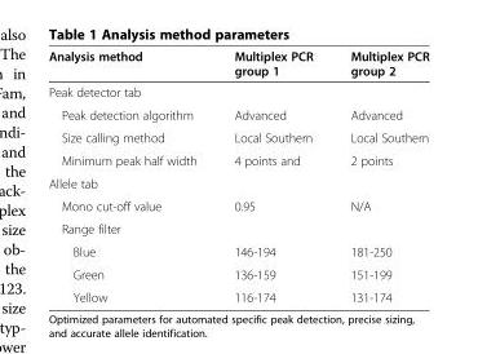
<table><thead><tr><td>Analysis method</td><td>Multiplex PCR group 1</td><td>Multiplex PCR group 2</td></tr></thead><tbody><tr><td colspan="3">Peak detector tab</td></tr><tr><td>Peak detection algorithm</td><td>Advanced</td><td>Advanced</td></tr><tr><td>Size calling method</td><td>Local Southern</td><td>Local Southern</td></tr><tr><td>Minimum peak half width</td><td>4 points and</td><td>2 points</td></tr><tr><td colspan="3">Allele tab</td></tr><tr><td>Mono cut-off value</td><td>0.95</td><td>N/A</td></tr><tr><td colspan="3">Range filter</td></tr><tr><td>Blue</td><td>146-194</td><td>181-250</td></tr><tr><td>Green</td><td>136-159</td><td>151-199</td></tr><tr><td>Yellow</td><td>116-174</td><td>131-174</td></tr></tbody></table>